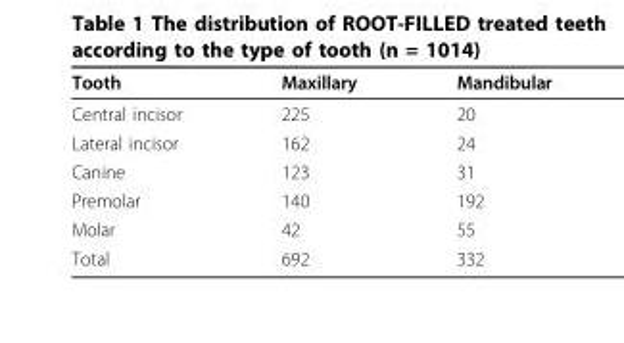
<table><thead><tr><td>Tooth</td><td>Maxillary</td><td>Mandibular</td></tr></thead><tbody><tr><td>Central incisor</td><td>225</td><td>20</td></tr><tr><td>Lateral incisor</td><td>162</td><td>24</td></tr><tr><td>Canine</td><td>123</td><td>31</td></tr><tr><td>Premolar</td><td>140</td><td>192</td></tr><tr><td>Molar</td><td>42</td><td>55</td></tr><tr><td>Total</td><td>692</td><td>332</td></tr></tbody></table>